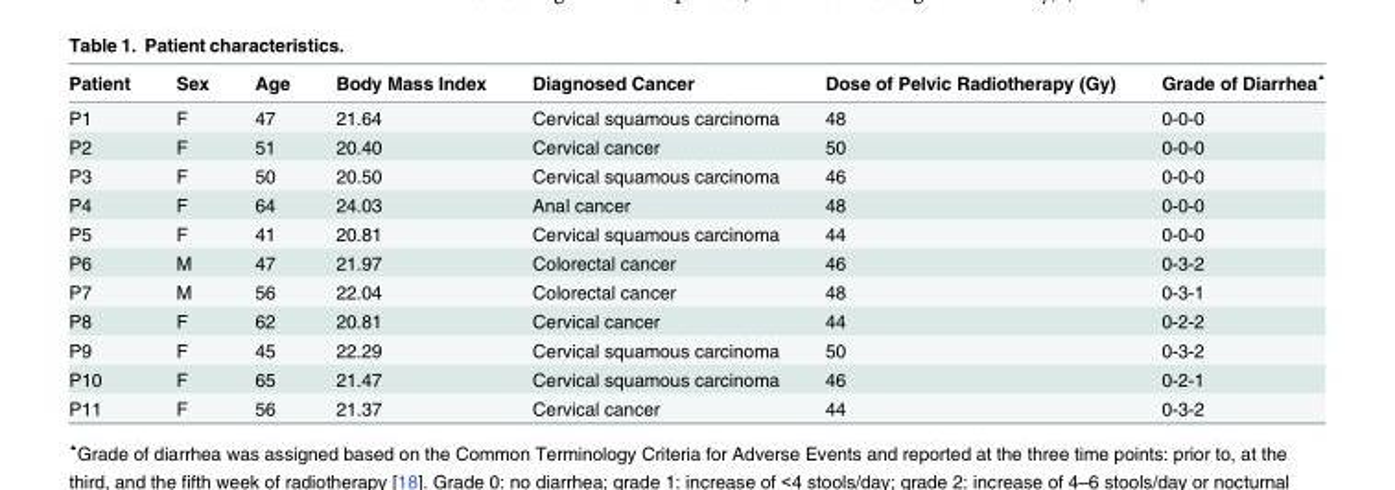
<table><thead><tr><td>Patient</td><td>Sex</td><td>Age</td><td>Body Mass Index</td><td>Diagnosed Cancer</td><td>Dose of Pelvic Radiotherapy (Gy)</td><td>Grade of Diarrhea<sup>▲</sup></td></tr></thead><tbody><tr><td>P1</td><td>F</td><td>47</td><td>21.64</td><td>Cervical squamous carcinoma</td><td>48</td><td>0-0-0</td></tr><tr><td>P2</td><td>F</td><td>51</td><td>20.40</td><td>Cervical cancer</td><td>50</td><td>0-0-0</td></tr><tr><td>P3</td><td>F</td><td>50</td><td>20.50</td><td>Cervical squamous carcinoma</td><td>46</td><td>0-0-0</td></tr><tr><td>P4</td><td>F</td><td>64</td><td>24.03</td><td>Anal cancer</td><td>48</td><td>0-0-0</td></tr><tr><td>P5</td><td>F</td><td>41</td><td>20.81</td><td>Cervical squamous carcinoma</td><td>44</td><td>0-0-0</td></tr><tr><td>P6</td><td>M</td><td>47</td><td>21.97</td><td>Colorectal cancer</td><td>46</td><td>0-3-2</td></tr><tr><td>P7</td><td>M</td><td>56</td><td>22.04</td><td>Colorectal cancer</td><td>48</td><td>0-3-1</td></tr><tr><td>P8</td><td>F</td><td>62</td><td>20.81</td><td>Cervical cancer</td><td>44</td><td>0-2-2</td></tr><tr><td>P9</td><td>F</td><td>45</td><td>22.29</td><td>Cervical squamous carcinoma</td><td>50</td><td>0-3-2</td></tr><tr><td>P10</td><td>F</td><td>65</td><td>21.47</td><td>Cervical squamous carcinoma</td><td>46</td><td>0-2-1</td></tr><tr><td>P11</td><td>F</td><td>56</td><td>21.37</td><td>Cervical cancer</td><td>44</td><td>0-3-2</td></tr></tbody></table>